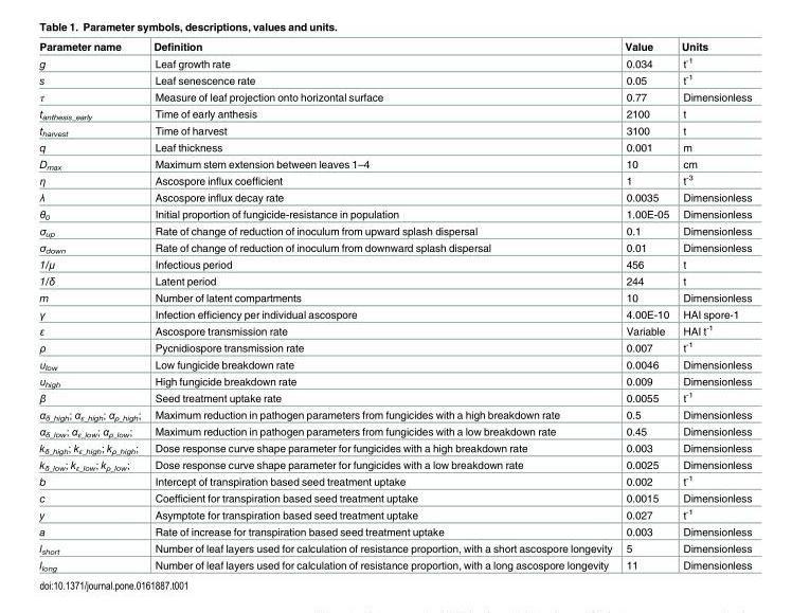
<table><thead><tr><td>Parameter name</td><td>Definition</td><td>Value</td><td>Units</td></tr></thead><tbody><tr><td>g</td><td>Leaf growth rate</td><td>0.034</td><td>t<sup>-1</sup></td></tr><tr><td>s</td><td>Leaf senescence rate</td><td>0.05</td><td>t<sup>-1</sup></td></tr><tr><td>τ</td><td>Measure of leaf projection onto horizontal surface</td><td>0.77</td><td>Dimensionless</td></tr><tr><td>t<sub>anthesis_early</sub></td><td>Time of early anthesis</td><td>2100</td><td>t</td></tr><tr><td>t<sub>harvest</sub></td><td>Time of harvest</td><td>3100</td><td>t</td></tr><tr><td>q</td><td>Leaf thickness</td><td>0.001</td><td>m</td></tr><tr><td>D<sub>max</sub></td><td>Maximum stem extension between leaves 1–4</td><td>10</td><td>cm</td></tr><tr><td>η</td><td>Ascospore influx coefficient</td><td>1</td><td>t<sup>-3</sup></td></tr><tr><td>λ</td><td>Ascospore influx decay rate</td><td>0.0035</td><td>Dimensionless</td></tr><tr><td>θ<sub>0</sub></td><td>Initial proportion of fungicide-resistance in population</td><td>1.00E-05</td><td>Dimensionless</td></tr><tr><td>σ<sub>up</sub></td><td>Rate of change of reduction of inoculum from upward splash dispersal</td><td>0.1</td><td>Dimensionless</td></tr><tr><td>σ<sub>down</sub></td><td>Rate of change of reduction of inoculum from downward splash dispersal</td><td>0.01</td><td>Dimensionless</td></tr><tr><td>1/μ</td><td>Infectious period</td><td>456</td><td>t</td></tr><tr><td>1/δ</td><td>Latent period</td><td>244</td><td>t</td></tr><tr><td>m</td><td>Number of latent compartments</td><td>10</td><td>Dimensionless</td></tr><tr><td>γ</td><td>Infection efficiency per individual ascospore</td><td>4.00E-10</td><td>HAI spore-1</td></tr><tr><td>ε</td><td>Ascospore transmission rate</td><td>Variable</td><td>HAI t<sup>-1</sup></td></tr><tr><td>ρ</td><td>Pycnidiospore transmission rate</td><td>0.007</td><td>t<sup>-1</sup></td></tr><tr><td>υ<sub>low</sub></td><td>Low fungicide breakdown rate</td><td>0.0046</td><td>Dimensionless</td></tr><tr><td>υ<sub>high</sub></td><td>High fungicide breakdown rate</td><td>0.009</td><td>Dimensionless</td></tr><tr><td>β</td><td>Seed treatment uptake rate</td><td>0.0055</td><td>t<sup>-1</sup></td></tr><tr><td>α<sub>δ_high</sub>; α<sub>ε_high</sub>; α<sub>ρ_high</sub>;</td><td>Maximum reduction in pathogen parameters from fungicides with a high breakdown rate</td><td>0.5</td><td>Dimensionless</td></tr><tr><td>α<sub>δ_low</sub>; α<sub>ε_low</sub>; α<sub>ρ_low</sub>;</td><td>Maximum reduction in pathogen parameters from fungicides with a low breakdown rate</td><td>0.45</td><td>Dimensionless</td></tr><tr><td>k<sub>δ_high</sub>; k<sub>ε_high</sub>; k<sub>ρ_high</sub>;</td><td>Dose response curve shape parameter for fungicides with a high breakdown rate</td><td>0.003</td><td>Dimensionless</td></tr><tr><td>k<sub>δ_low</sub>; k<sub>ε_low</sub>; k<sub>ρ_low</sub>;</td><td>Dose response curve shape parameter for fungicides with a low breakdown rate</td><td>0.0025</td><td>Dimensionless</td></tr><tr><td>b</td><td>Intercept of transpiration based seed treatment uptake</td><td>0.002</td><td>t<sup>-1</sup></td></tr><tr><td>c</td><td>Coefficient for transpiration based seed treatment uptake</td><td>0.0015</td><td>Dimensionless</td></tr><tr><td>y</td><td>Asymptote for transpiration based seed treatment uptake</td><td>0.027</td><td>t<sup>-1</sup></td></tr><tr><td>a</td><td>Rate of increase for transpiration based seed treatment uptake</td><td>0.003</td><td>Dimensionless</td></tr><tr><td>l<sub>short</sub></td><td>Number of leaf layers used for calculation of resistance proportion, with a short ascospore longevity</td><td>5</td><td>Dimensionless</td></tr><tr><td>l<sub>long</sub></td><td>Number of leaf layers used for calculation of resistance proportion, with a long ascospore longevity</td><td>11</td><td>Dimensionless</td></tr></tbody></table>